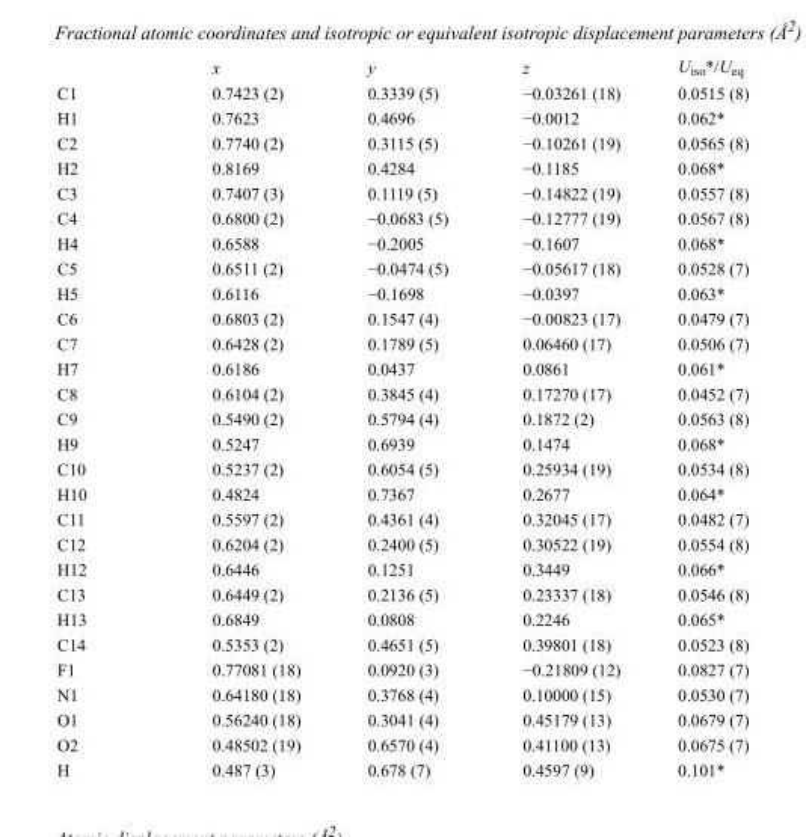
<table><thead><tr><td></td><td>x</td><td>y</td><td>z</td><td>U<sub>iso</sub>*/U<sub>eq</sub></td></tr></thead><tbody><tr><td>C1</td><td>0.7423 (2)</td><td>0.3339 (5)</td><td>−0.03261 (18)</td><td>0.0515 (8)</td></tr><tr><td>H1</td><td>0.7623</td><td>0.4696</td><td>−0.0012</td><td>0.062*</td></tr><tr><td>C2</td><td>0.7740 (2)</td><td>0.3115 (5)</td><td>−0.10261 (19)</td><td>0.0565 (8)</td></tr><tr><td>H2</td><td>0.8169</td><td>0.4284</td><td>−0.1185</td><td>0.068*</td></tr><tr><td>C3</td><td>0.7407 (3)</td><td>0.1119 (5)</td><td>−0.14822 (19)</td><td>0.0557 (8)</td></tr><tr><td>C4</td><td>0.6800 (2)</td><td>−0.0683 (5)</td><td>−0.12777 (19)</td><td>0.0567 (8)</td></tr><tr><td>H4</td><td>0.6588</td><td>−0.2005</td><td>−0.1607</td><td>0.068*</td></tr><tr><td>C5</td><td>0.6511 (2)</td><td>−0.0474 (5)</td><td>−0.05617 (18)</td><td>0.0528 (7)</td></tr><tr><td>H5</td><td>0.6116</td><td>−0.1698</td><td>−0.0397</td><td>0.063*</td></tr><tr><td>C6</td><td>0.6803 (2)</td><td>0.1547 (4)</td><td>−0.00823 (17)</td><td>0.0479 (7)</td></tr><tr><td>C7</td><td>0.6428 (2)</td><td>0.1789 (5)</td><td>0.06460 (17)</td><td>0.0506 (7)</td></tr><tr><td>H7</td><td>0.6186</td><td>0.0437</td><td>0.0861</td><td>0.061*</td></tr><tr><td>C8</td><td>0.6104 (2)</td><td>0.3845 (4)</td><td>0.17270 (17)</td><td>0.0452 (7)</td></tr><tr><td>C9</td><td>0.5490 (2)</td><td>0.5794 (4)</td><td>0.1872 (2)</td><td>0.0563 (8)</td></tr><tr><td>H9</td><td>0.5247</td><td>0.6939</td><td>0.1474</td><td>0.068*</td></tr><tr><td>C10</td><td>0.5237 (2)</td><td>0.6054 (5)</td><td>0.25934 (19)</td><td>0.0534 (8)</td></tr><tr><td>H10</td><td>0.4824</td><td>0.7367</td><td>0.2677</td><td>0.064*</td></tr><tr><td>C11</td><td>0.5597 (2)</td><td>0.4361 (4)</td><td>0.32045 (17)</td><td>0.0482 (7)</td></tr><tr><td>C12</td><td>0.6204 (2)</td><td>0.2400 (5)</td><td>0.30522 (19)</td><td>0.0554 (8)</td></tr><tr><td>H12</td><td>0.6446</td><td>0.1251</td><td>0.3449</td><td>0.066*</td></tr><tr><td>C13</td><td>0.6449 (2)</td><td>0.2136 (5)</td><td>0.23337 (18)</td><td>0.0546 (8)</td></tr><tr><td>H13</td><td>0.6849</td><td>0.0808</td><td>0.2246</td><td>0.065*</td></tr><tr><td>C14</td><td>0.5353 (2)</td><td>0.4651 (5)</td><td>0.39801 (18)</td><td>0.0523 (8)</td></tr><tr><td>F1</td><td>0.77081 (18)</td><td>0.0920 (3)</td><td>−0.21809 (12)</td><td>0.0827 (7)</td></tr><tr><td>N1</td><td>0.64180 (18)</td><td>0.3768 (4)</td><td>0.10000 (15)</td><td>0.0530 (7)</td></tr><tr><td>O1</td><td>0.56240 (18)</td><td>0.3041 (4)</td><td>0.45179 (13)</td><td>0.0679 (7)</td></tr><tr><td>O2</td><td>0.48502 (19)</td><td>0.6570 (4)</td><td>0.41100 (13)</td><td>0.0675 (7)</td></tr><tr><td>H</td><td>0.487 (3)</td><td>0.678 (7)</td><td>0.4597 (9)</td><td>0.101*</td></tr></tbody></table>